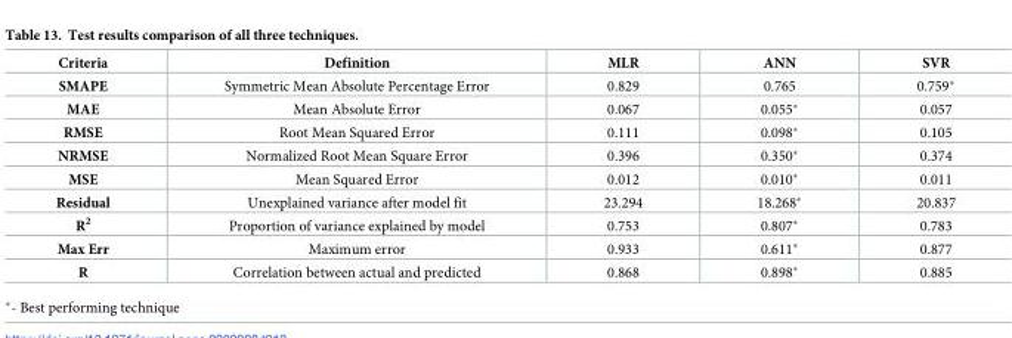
<table><thead><tr><td>Criteria</td><td>Definition</td><td>MLR</td><td>ANN</td><td>SVR</td></tr></thead><tbody><tr><td>SMAPE</td><td>Symmetric Mean Absolute Percentage Error</td><td>0.829</td><td>0.765</td><td>0.759*</td></tr><tr><td>MAE</td><td>Mean Absolute Error</td><td>0.067</td><td>0.055*</td><td>0.057</td></tr><tr><td>RMSE</td><td>Root Mean Squared Error</td><td>0.111</td><td>0.098*</td><td>0.105</td></tr><tr><td>NRMSE</td><td>Normalized Root Mean Square Error</td><td>0.396</td><td>0.350*</td><td>0.374</td></tr><tr><td>MSE</td><td>Mean Squared Error</td><td>0.012</td><td>0.010*</td><td>0.011</td></tr><tr><td>Residual</td><td>Unexplained variance after model fit</td><td>23.294</td><td>18.268*</td><td>20.837</td></tr><tr><td>R<sup>2</sup></td><td>Proportion of variance explained by model</td><td>0.753</td><td>0.807*</td><td>0.783</td></tr><tr><td>Max Err</td><td>Maximum error</td><td>0.933</td><td>0.611*</td><td>0.877</td></tr><tr><td>R</td><td>Correlation between actual and predicted</td><td>0.868</td><td>0.898*</td><td>0.885</td></tr></tbody></table>